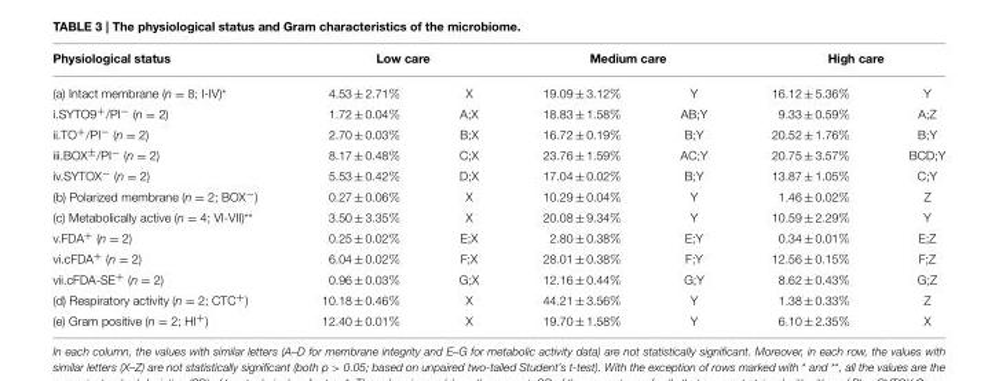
<table><thead><tr><td rowspan="2">Physiological status (a) Intact membrane (n = 8; I-IV)*</td><td colspan="2">Low care</td><td colspan="2">Medium care</td><td colspan="2">High care</td></tr><tr><td>4.53 ± 2.71%</td><td>X</td><td>19.09 ± 3.12%</td><td>Y</td><td>16.12 ± 5.36%</td><td>Y</td></tr></thead><tbody><tr><td>i.SYTO9<sup>+</sup>/PI<sup>−</sup> (n = 2)</td><td>1.72 ± 0.04%</td><td>A;X</td><td>18.83 ± 1.58%</td><td>AB;Y</td><td>9.33 ± 0.59%</td><td>A;Z</td></tr><tr><td>ii.TO<sup>+</sup>/PI<sup>−</sup> (n = 2)</td><td>2.70 ± 0.03%</td><td>B;X</td><td>16.72 ± 0.19%</td><td>B;Y</td><td>20.52 ± 1.76%</td><td>B;Y</td></tr><tr><td>iii.BOX<sup>±</sup>/PI<sup>−</sup> (n = 2)</td><td>8.17 ± 0.48%</td><td>C;X</td><td>23.76 ± 1.59%</td><td>AC;Y</td><td>20.75 ± 3.57%</td><td>BCD;Y</td></tr><tr><td>iv.SYTOX<sup>−</sup> (n = 2)</td><td>5.53 ± 0.42%</td><td>D;X</td><td>17.04 ± 0.02%</td><td>B;Y</td><td>13.87 ± 1.05%</td><td>C;Y</td></tr><tr><td>(b) Polarized membrane (n = 2; BOX<sup>−</sup>)</td><td>0.27 ± 0.06%</td><td>X</td><td>10.29 ± 0.04%</td><td>Y</td><td>1.46 ± 0.02%</td><td>Z</td></tr><tr><td>(c) Metabolically active (n = 4; VI-VII)**</td><td>3.50 ± 3.35%</td><td>X</td><td>20.08 ± 9.34%</td><td>Y</td><td>10.59 ± 2.29%</td><td>Y</td></tr><tr><td>v.FDA<sup>+</sup> (n = 2)</td><td>0.25 ± 0.02%</td><td>E;X</td><td>2.80 ± 0.38%</td><td>E;Y</td><td>0.34 ± 0.01%</td><td>E;Z</td></tr><tr><td>vi.cFDA<sup>+</sup> (n = 2)</td><td>6.04 ± 0.02%</td><td>F;X</td><td>28.01 ± 0.38%</td><td>F;Y</td><td>12.56 ± 0.15%</td><td>F;Z</td></tr><tr><td>vii.cFDA-SE<sup>+</sup> (n = 2)</td><td>0.96 ± 0.03%</td><td>G;X</td><td>12.16 ± 0.44%</td><td>G;Y</td><td>8.62 ± 0.43%</td><td>G;Z</td></tr><tr><td>(d) Respiratory activity (n = 2; CTC<sup>+</sup>)</td><td>10.18 ± 0.46%</td><td>X</td><td>44.21 ± 3.56%</td><td>Y</td><td>1.38 ± 0.33%</td><td>Z</td></tr><tr><td>(e) Gram positive (n = 2; HI<sup>+</sup>)</td><td>12.40 ± 0.01%</td><td>X</td><td>19.70 ± 1.58%</td><td>Y</td><td>6.10 ± 2.35%</td><td>X</td></tr></tbody></table>